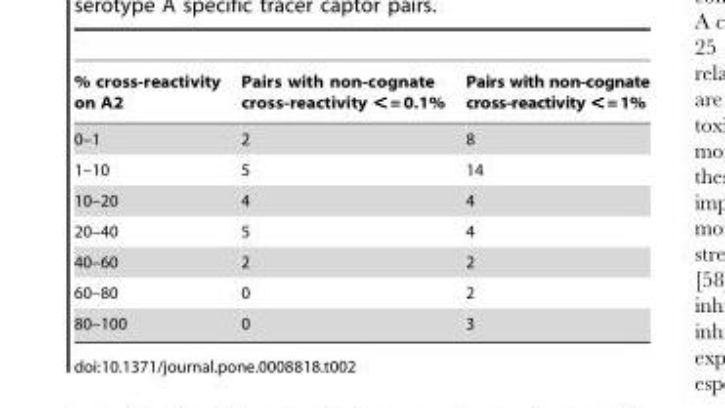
<table><thead><tr><td>% cross-reactivity on A2</td><td>Pairs with non-cognate cross-reactivity &lt; = 0.1%</td><td>Pairs with non-cognate cross-reactivity &lt;=1%</td></tr></thead><tbody><tr><td>0–1</td><td>2</td><td>8</td></tr><tr><td>1–10</td><td>5</td><td>14</td></tr><tr><td>10–20</td><td>4</td><td>4</td></tr><tr><td>20–40</td><td>5</td><td>4</td></tr><tr><td>40–60</td><td>2</td><td>2</td></tr><tr><td>60–80</td><td>0</td><td>2</td></tr><tr><td>80–100</td><td>0</td><td>3</td></tr></tbody></table>